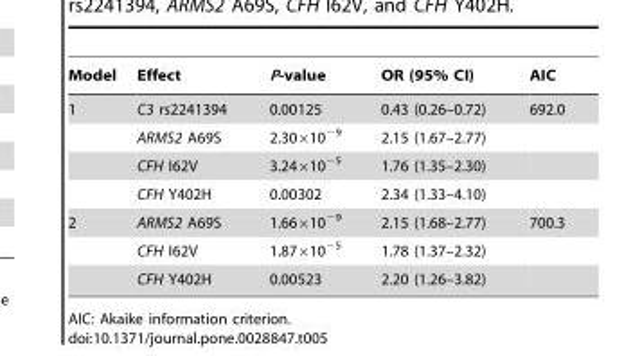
<table><thead><tr><td>Model</td><td>Effect</td><td>P-value</td><td>OR (95% CI)</td><td>AIC</td></tr></thead><tbody><tr><td rowspan="4">1</td><td>C3 rs2241394</td><td>0.00125</td><td>0.43 (0.26–0.72)</td><td>692.0</td></tr><tr><td>ARMS2 A69S</td><td>2.30×10<sup>−9</sup></td><td>2.15 (1.67–2.77)</td><td></td></tr><tr><td>CFH I62V</td><td>3.24×10<sup>−5</sup></td><td>1.76 (1.35–2.30)</td><td></td></tr><tr><td>CFH Y402H</td><td>0.00302</td><td>2.34 (1.33–4.10)</td><td></td></tr><tr><td rowspan="3">2</td><td>ARMS2 A69S</td><td>1.66×10<sup>−9</sup></td><td>2.15 (1.68–2.77)</td><td>700.3</td></tr><tr><td>CFH I62V</td><td>1.87×10<sup>−5</sup></td><td>1.78 (1.37–2.32)</td><td></td></tr><tr><td>CFH Y402H</td><td>0.00523</td><td>2.20 (1.26–3.82)</td><td></td></tr></tbody></table>